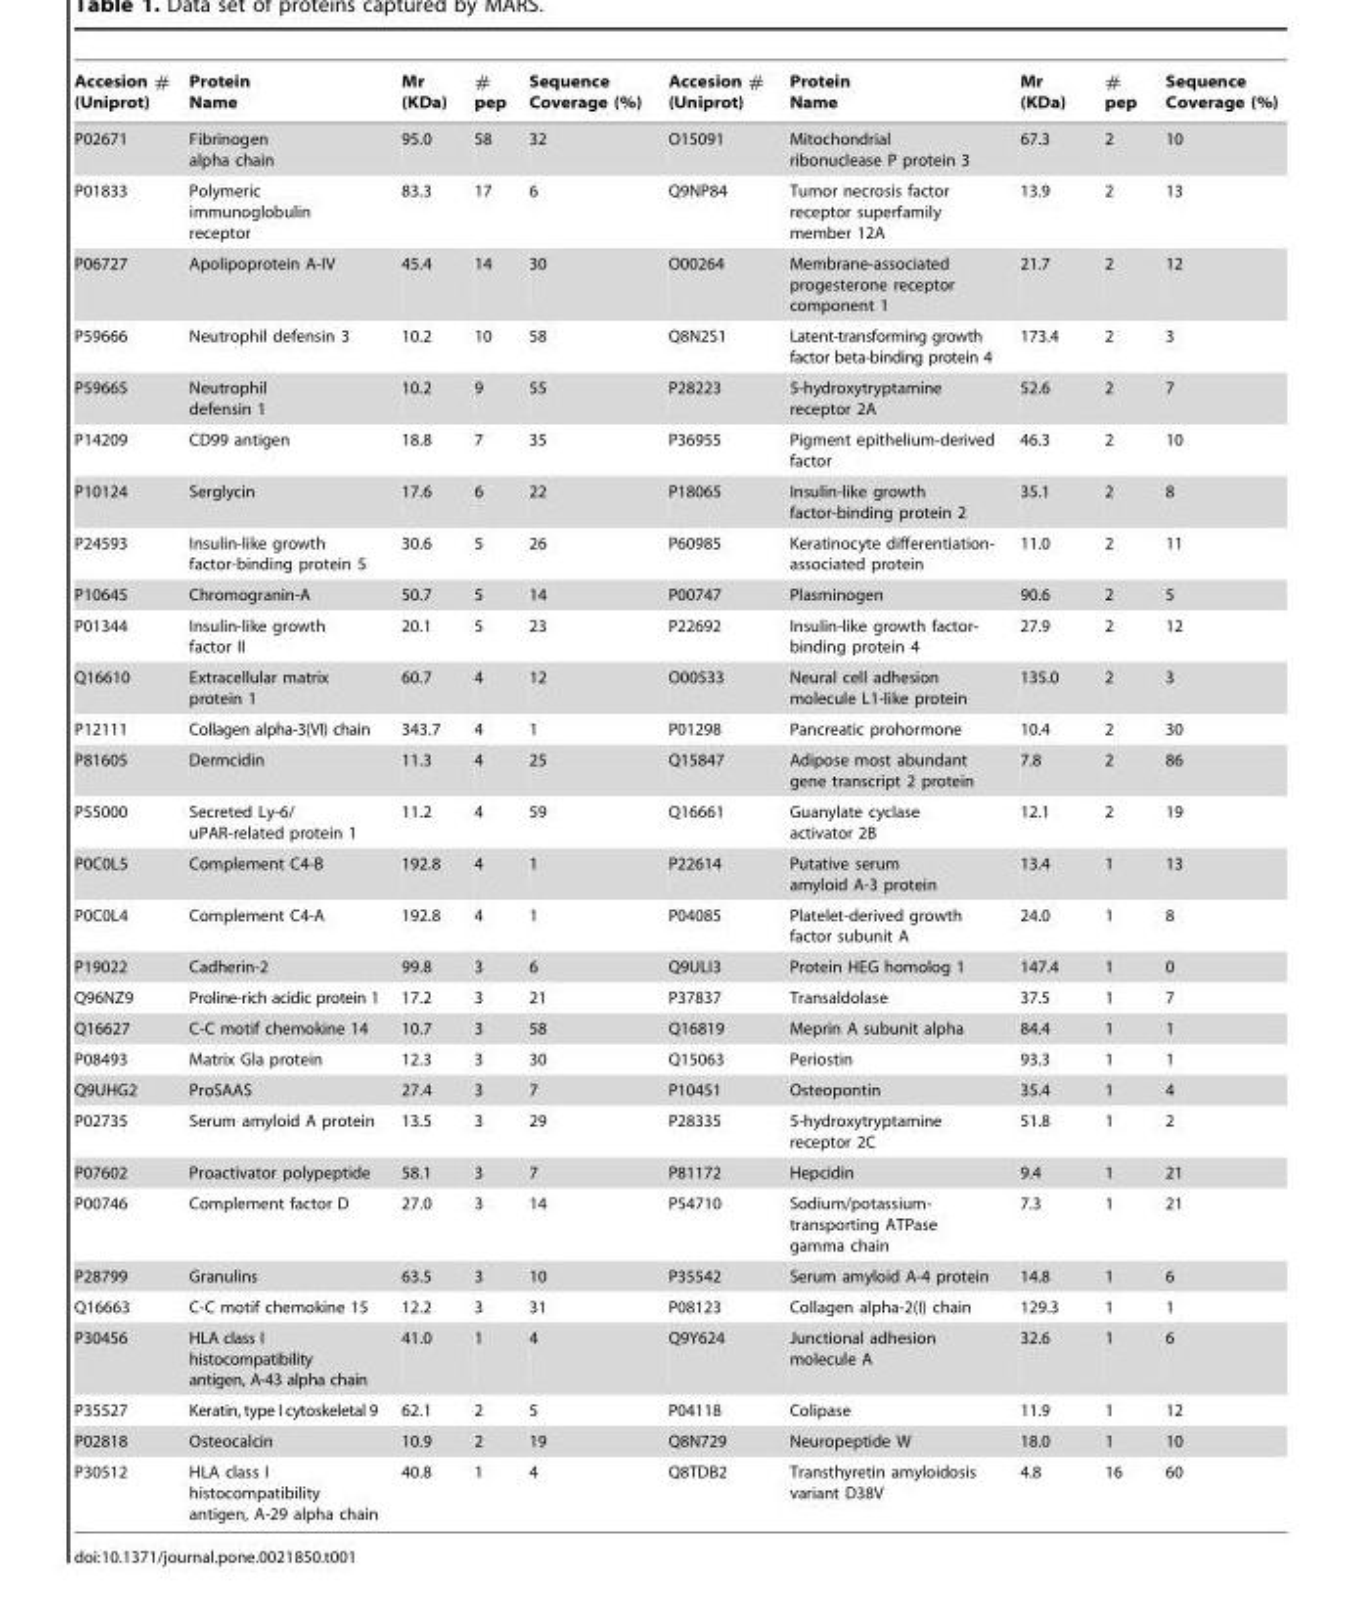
<table><thead><tr><td>Accesion # (Uniprot)</td><td>Protein Name</td><td>Mr (KDa)</td><td># pep</td><td>Sequence Coverage (%)</td><td>Accesion # (Uniprot)</td><td>Protein Name</td><td>Mr (KDa)</td><td># pep</td><td>Sequence Coverage (%)</td></tr></thead><tbody><tr><td>P02671</td><td>Fibrinogen alpha chain</td><td>95.0</td><td>58</td><td>32</td><td>O15091</td><td>Mitochondrial ribonuclease P protein 3</td><td>67.3</td><td>2</td><td>10</td></tr><tr><td>P01833</td><td>Polymeric immunoglobulin receptor</td><td>83.3</td><td>17</td><td>6</td><td>Q9NP84</td><td>Tumor necrosis factor receptor superfamily member 12A</td><td>13.9</td><td>2</td><td>13</td></tr><tr><td>P06727</td><td>Apolipoprotein A-IV</td><td>45.4</td><td>14</td><td>30</td><td>O00264</td><td>Membrane-associated progesterone receptor component 1</td><td>21.7</td><td>2</td><td>12</td></tr><tr><td>P59666</td><td>Neutrophil defensin 3</td><td>10.2</td><td>10</td><td>58</td><td>Q8N2S1</td><td>Latent-transforming growth factor beta-binding protein 4</td><td>173.4</td><td>2</td><td>3</td></tr><tr><td>P59665</td><td>Neutrophil defensin 1</td><td>10.2</td><td>9</td><td>55</td><td>P28223</td><td>5-hydroxytryptamine receptor 2A</td><td>52.6</td><td>2</td><td>7</td></tr><tr><td>P14209</td><td>CD99 antigen</td><td>18.8</td><td>7</td><td>35</td><td>P36955</td><td>Pigment epithelium-derived factor</td><td>46.3</td><td>2</td><td>10</td></tr><tr><td>P10124</td><td>Serglycin</td><td>17.6</td><td>6</td><td>22</td><td>P18065</td><td>Insulin-like growth factor-binding protein 2</td><td>35.1</td><td>2</td><td>8</td></tr><tr><td>P24593</td><td>Insulin-like growth factor-binding protein 5</td><td>30.6</td><td>5</td><td>26</td><td>P60985</td><td>Keratinocyte differentiation- associated protein</td><td>11.0</td><td>2</td><td>11</td></tr><tr><td>P10645</td><td>Chromogranin-A</td><td>50.7</td><td>5</td><td>14</td><td>P00747</td><td>Plasminogen</td><td>90.6</td><td>2</td><td>5</td></tr><tr><td>P01344</td><td>Insulin-like growth factor II</td><td>20.1</td><td>5</td><td>23</td><td>P22692</td><td>Insulin-like growth factor- binding protein 4</td><td>27.9</td><td>2</td><td>12</td></tr><tr><td>Q16610</td><td>Extracellular matrix protein 1</td><td>60.7</td><td>4</td><td>12</td><td>O00533</td><td>Neural cell adhesion molecule L1-like protein</td><td>135.0</td><td>2</td><td>3</td></tr><tr><td>P12111</td><td>Collagen alpha-3(VI) chain</td><td>343.7</td><td>4</td><td>1</td><td>P01298</td><td>Pancreatic prohormone</td><td>10.4</td><td>2</td><td>30</td></tr><tr><td>P81605</td><td>Dermcidin</td><td>11.3</td><td>4</td><td>25</td><td>Q15847</td><td>Adipose most abundant gene transcript 2 protein</td><td>7.8</td><td>2</td><td>86</td></tr><tr><td>P55000</td><td>Secreted Ly-6/ uPAR-related protein 1</td><td>11.2</td><td>4</td><td>59</td><td>Q16661</td><td>Guanylate cyclase activator 2B</td><td>12.1</td><td>2</td><td>19</td></tr><tr><td>P0C0L5</td><td>Complement C4-B</td><td>192.8</td><td>4</td><td>1</td><td>P22614</td><td>Putative serum amyloid A-3 protein</td><td>13.4</td><td>1</td><td>13</td></tr><tr><td>P0C0L4</td><td>Complement C4-A</td><td>192.8</td><td>4</td><td>1</td><td>P04085</td><td>Platelet-derived growth factor subunit A</td><td>24.0</td><td>1</td><td>8</td></tr><tr><td>P19022</td><td>Cadherin-2</td><td>99.8</td><td>3</td><td>6</td><td>Q9ULI3</td><td>Protein HEG homolog 1</td><td>147.4</td><td>1</td><td>0</td></tr><tr><td>Q96NZ9</td><td>Proline-rich acidic protein 1</td><td>17.2</td><td>3</td><td>21</td><td>P37837</td><td>Transaldolase</td><td>37.5</td><td>1</td><td>7</td></tr><tr><td>Q16627</td><td>C-C motif chemokine 14</td><td>10.7</td><td>3</td><td>58</td><td>Q16819</td><td>Meprin A subunit alpha</td><td>84.4</td><td>1</td><td>1</td></tr><tr><td>P08493</td><td>Matrix Gla protein</td><td>12.3</td><td>3</td><td>30</td><td>Q15063</td><td>Periostin</td><td>93.3</td><td>1</td><td>1</td></tr><tr><td>Q9UHG2</td><td>ProSAAS</td><td>27.4</td><td>3</td><td>7</td><td>P10451</td><td>Osteopontin</td><td>35.4</td><td>1</td><td>4</td></tr><tr><td>P02735</td><td>Serum amyloid A protein</td><td>13.5</td><td>3</td><td>29</td><td>P28335</td><td>5-hydroxytryptamine receptor 2C</td><td>51.8</td><td>1</td><td>2</td></tr><tr><td>P07602</td><td>Proactivator polypeptide</td><td>58.1</td><td>3</td><td>7</td><td>P81172</td><td>Hepcidin</td><td>9.4</td><td>1</td><td>21</td></tr><tr><td>P00746</td><td>Complement factor D</td><td>27.0</td><td>3</td><td>14</td><td>P54710</td><td>Sodium/potassium- transporting ATPase gamma chain</td><td>7.3</td><td>1</td><td>21</td></tr><tr><td>P28799</td><td>Granulins</td><td>63.5</td><td>3</td><td>10</td><td>P35542</td><td>Serum amyloid A-4 protein</td><td>14.8</td><td>1</td><td>6</td></tr><tr><td>Q16663</td><td>C-C motif chemokine 15</td><td>12.2</td><td>3</td><td>31</td><td>P08123</td><td>Collagen alpha-2(I) chain</td><td>129.3</td><td>1</td><td>1</td></tr><tr><td>P30456</td><td>HLA class I histocompatibility antigen, A-43 alpha chain</td><td>41.0</td><td>1</td><td>4</td><td>Q9Y624</td><td>Junctional adhesion molecule A</td><td>32.6</td><td>1</td><td>6</td></tr><tr><td>P35527</td><td>Keratin, type I cytoskeletal 9</td><td>62.1</td><td>2</td><td>5</td><td>P04118</td><td>Colipase</td><td>11.9</td><td>1</td><td>12</td></tr><tr><td>P02818</td><td>Osteocalcin</td><td>10.9</td><td>2</td><td>19</td><td>Q8N729</td><td>Neuropeptide W</td><td>18.0</td><td>1</td><td>10</td></tr><tr><td>P30512</td><td>HLA class I histocompatibility antigen, A-29 alpha chain</td><td>40.8</td><td>1</td><td>4</td><td>Q8TDB2</td><td>Transthyretin amyloidosis variant D38V</td><td>4.8</td><td>16</td><td>60</td></tr></tbody></table>